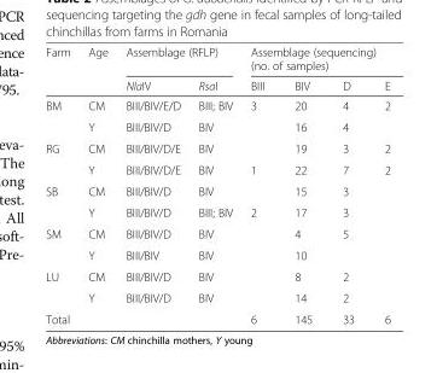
<table><thead><tr><td rowspan="2">Farm</td><td rowspan="2">Age</td><td colspan="2">Assemblage (RFLP)</td><td colspan="4">Assemblage (sequencing) (no. of samples)</td></tr><tr><td>NlaIV</td><td>RsaI</td><td>BIII</td><td>BIV</td><td>D</td><td>E</td></tr></thead><tbody><tr><td rowspan="2">BM</td><td>CM</td><td>BIII/BIV/E/D</td><td>BIII; BIV</td><td>3</td><td>20</td><td>4</td><td>2</td></tr><tr><td>Y</td><td>BIII/BIV/D</td><td>BIV</td><td></td><td>16</td><td>4</td><td></td></tr><tr><td rowspan="2">RG</td><td>CM</td><td>BIII/BIV/D/E</td><td>BIV</td><td></td><td>19</td><td>3</td><td>2</td></tr><tr><td>Y</td><td>BIII/BIV/D/E</td><td>BIV</td><td>1</td><td>22</td><td>7</td><td>2</td></tr><tr><td rowspan="2">SB</td><td>CM</td><td>BIII/BIV/D</td><td>BIV</td><td></td><td>15</td><td>3</td><td></td></tr><tr><td>Y</td><td>BIII/BIV/D</td><td>BIII; BIV</td><td>2</td><td>17</td><td>3</td><td></td></tr><tr><td rowspan="2">SM</td><td>CM</td><td>BIII/BIV/D</td><td>BIV</td><td></td><td>4</td><td>5</td><td></td></tr><tr><td>Y</td><td>BIII/BIV</td><td>BIV</td><td></td><td>10</td><td></td><td></td></tr><tr><td rowspan="2">LU</td><td>CM</td><td>BIII/BIV/D</td><td>BIV</td><td></td><td>8</td><td>2</td><td></td></tr><tr><td>Y</td><td>BIII/BIV/D</td><td>BIV</td><td></td><td>14</td><td>2</td><td></td></tr><tr><td>Total</td><td></td><td></td><td></td><td>6</td><td>145</td><td>33</td><td>6</td></tr></tbody></table>